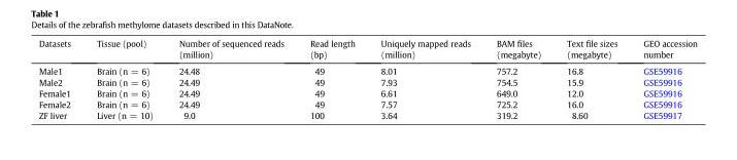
<table><thead><tr><td>Datasets</td><td>Tissue (pool)</td><td>Number of sequenced reads (million)</td><td>Read length (bp)</td><td>Uniquely mapped reads (million)</td><td>BAM files (megabyte)</td><td>Text file sizes (megabyte)</td><td>GEO accession number</td></tr></thead><tbody><tr><td>Male1</td><td>Brain (n = 6)</td><td>24.48</td><td>49</td><td>8.01</td><td>757.2</td><td>16.8</td><td>GSE59916</td></tr><tr><td>Male2</td><td>Brain (n = 6)</td><td>24.49</td><td>49</td><td>7.93</td><td>754.5</td><td>15.9</td><td>GSE59916</td></tr><tr><td>Female1</td><td>Brain (n = 6)</td><td>24.49</td><td>49</td><td>6.61</td><td>649.0</td><td>12.0</td><td>GSE59916</td></tr><tr><td>Female2</td><td>Brain (n = 6)</td><td>24.49</td><td>49</td><td>7.57</td><td>725.2</td><td>16.0</td><td>GSE59916</td></tr><tr><td>ZF liver</td><td>Liver (n = 10)</td><td>9.0</td><td>100</td><td>3.64</td><td>319.2</td><td>8.60</td><td>GSE59917</td></tr></tbody></table>